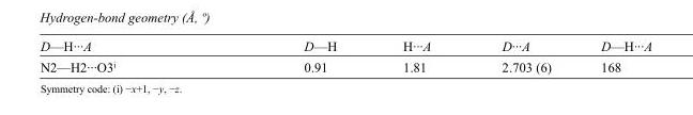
<table><tbody><tr><td>D—H···A</td><td>D—H</td><td>H···A</td><td>D···A</td><td>D—H···A</td></tr><tr><td>N2—H2···O3<sup>i</sup></td><td>0.91</td><td>1.81</td><td>2.703 (6)</td><td>168</td></tr></tbody></table>